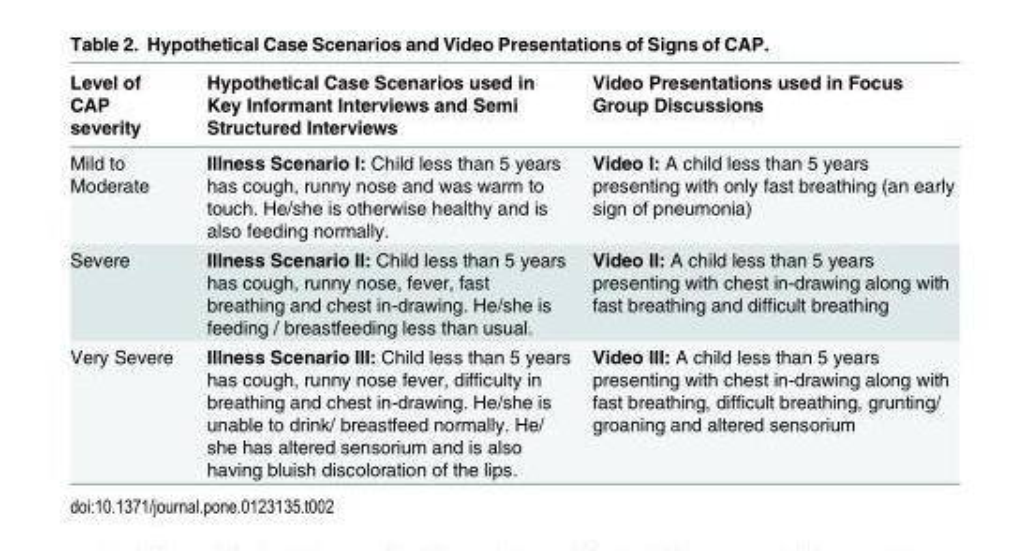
<table><thead><tr><td>Level of CAP severity</td><td>Hypothetical Case Scenarios used in Key Informant Interviews and Semi Structured Interviews</td><td>Video Presentations used in Focus Group Discussions</td></tr></thead><tbody><tr><td>Mild to Moderate</td><td>Illness Scenario I: Child less than 5 years has cough, runny nose and was warm to touch. He/she is otherwise healthy and is also feeding normally.</td><td>Video I: A child less than 5 years presenting with only fast breathing (an early sign of pneumonia)</td></tr><tr><td>Severe</td><td>Illness Scenario II: Child less than 5 years has cough, runny nose, fever, fast breathing and chest in-drawing. He/she is feeding / breastfeeding less than usual.</td><td>Video II: A child less than 5 years presenting with chest in-drawing along with fast breathing and difficult breathing</td></tr><tr><td>Very Severe</td><td>Illness Scenario III: Child less than 5 years has cough, runny nose fever, difficulty in breathing and chest in-drawing. He/she is unable to drink/ breastfeed normally. He/ she has altered sensorium and is also having bluish discoloration of the lips.</td><td>Video III: A child less than 5 years presenting with chest in-drawing along with fast breathing, difficult breathing, grunting/ groaning and altered sensorium</td></tr></tbody></table>